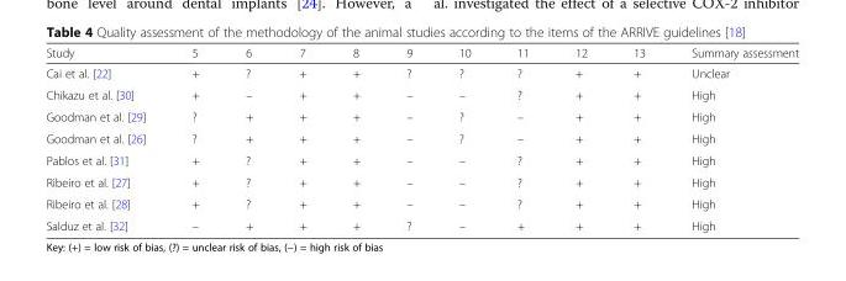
<table><thead><tr><td>Study</td><td>5</td><td>6</td><td>7</td><td>8</td><td>9</td><td>10</td><td>11</td><td>12</td><td>13</td><td>Summary assessment</td></tr></thead><tbody><tr><td>Cai et al. [22]</td><td>+</td><td>?</td><td>+</td><td>+</td><td>?</td><td>?</td><td>?</td><td>+</td><td>+</td><td>Unclear</td></tr><tr><td>Chikazu et al. [30]</td><td>+</td><td>–</td><td>+</td><td>+</td><td>–</td><td>–</td><td>?</td><td>+</td><td>+</td><td>High</td></tr><tr><td>Goodman et al. [29]</td><td>?</td><td>+</td><td>+</td><td>+</td><td>–</td><td>?</td><td>–</td><td>+</td><td>+</td><td>High</td></tr><tr><td>Goodman et al. [26]</td><td>?</td><td>+</td><td>+</td><td>+</td><td>–</td><td>?</td><td>–</td><td>+</td><td>+</td><td>High</td></tr><tr><td>Pablos et al. [31]</td><td>+</td><td>?</td><td>+</td><td>+</td><td>–</td><td>–</td><td>?</td><td>+</td><td>+</td><td>High</td></tr><tr><td>Ribeiro et al. [27]</td><td>+</td><td>?</td><td>+</td><td>+</td><td>–</td><td>–</td><td>?</td><td>+</td><td>+</td><td>High</td></tr><tr><td>Ribeiro et al. [28]</td><td>+</td><td>?</td><td>+</td><td>+</td><td>–</td><td>–</td><td>?</td><td>+</td><td>+</td><td>High</td></tr><tr><td>Salduz et al. [32]</td><td>–</td><td>+</td><td>+</td><td>+</td><td>?</td><td>–</td><td>+</td><td>+</td><td>+</td><td>High</td></tr></tbody></table>